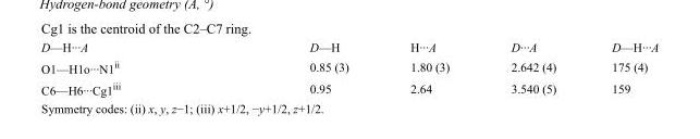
<table><tbody><tr><td>D—H···A</td><td>D—H</td><td>H···A</td><td>D···A</td><td>D—H···A</td></tr><tr><td>O1—H1o···N1<sup>ii</sup></td><td>0.85 (3)</td><td>1.80 (3)</td><td>2.642 (4)</td><td>175 (4)</td></tr><tr><td>C6—H6···Cg1<sup>iii</sup></td><td>0.95</td><td>2.64</td><td>3.540 (5)</td><td>159</td></tr></tbody></table>